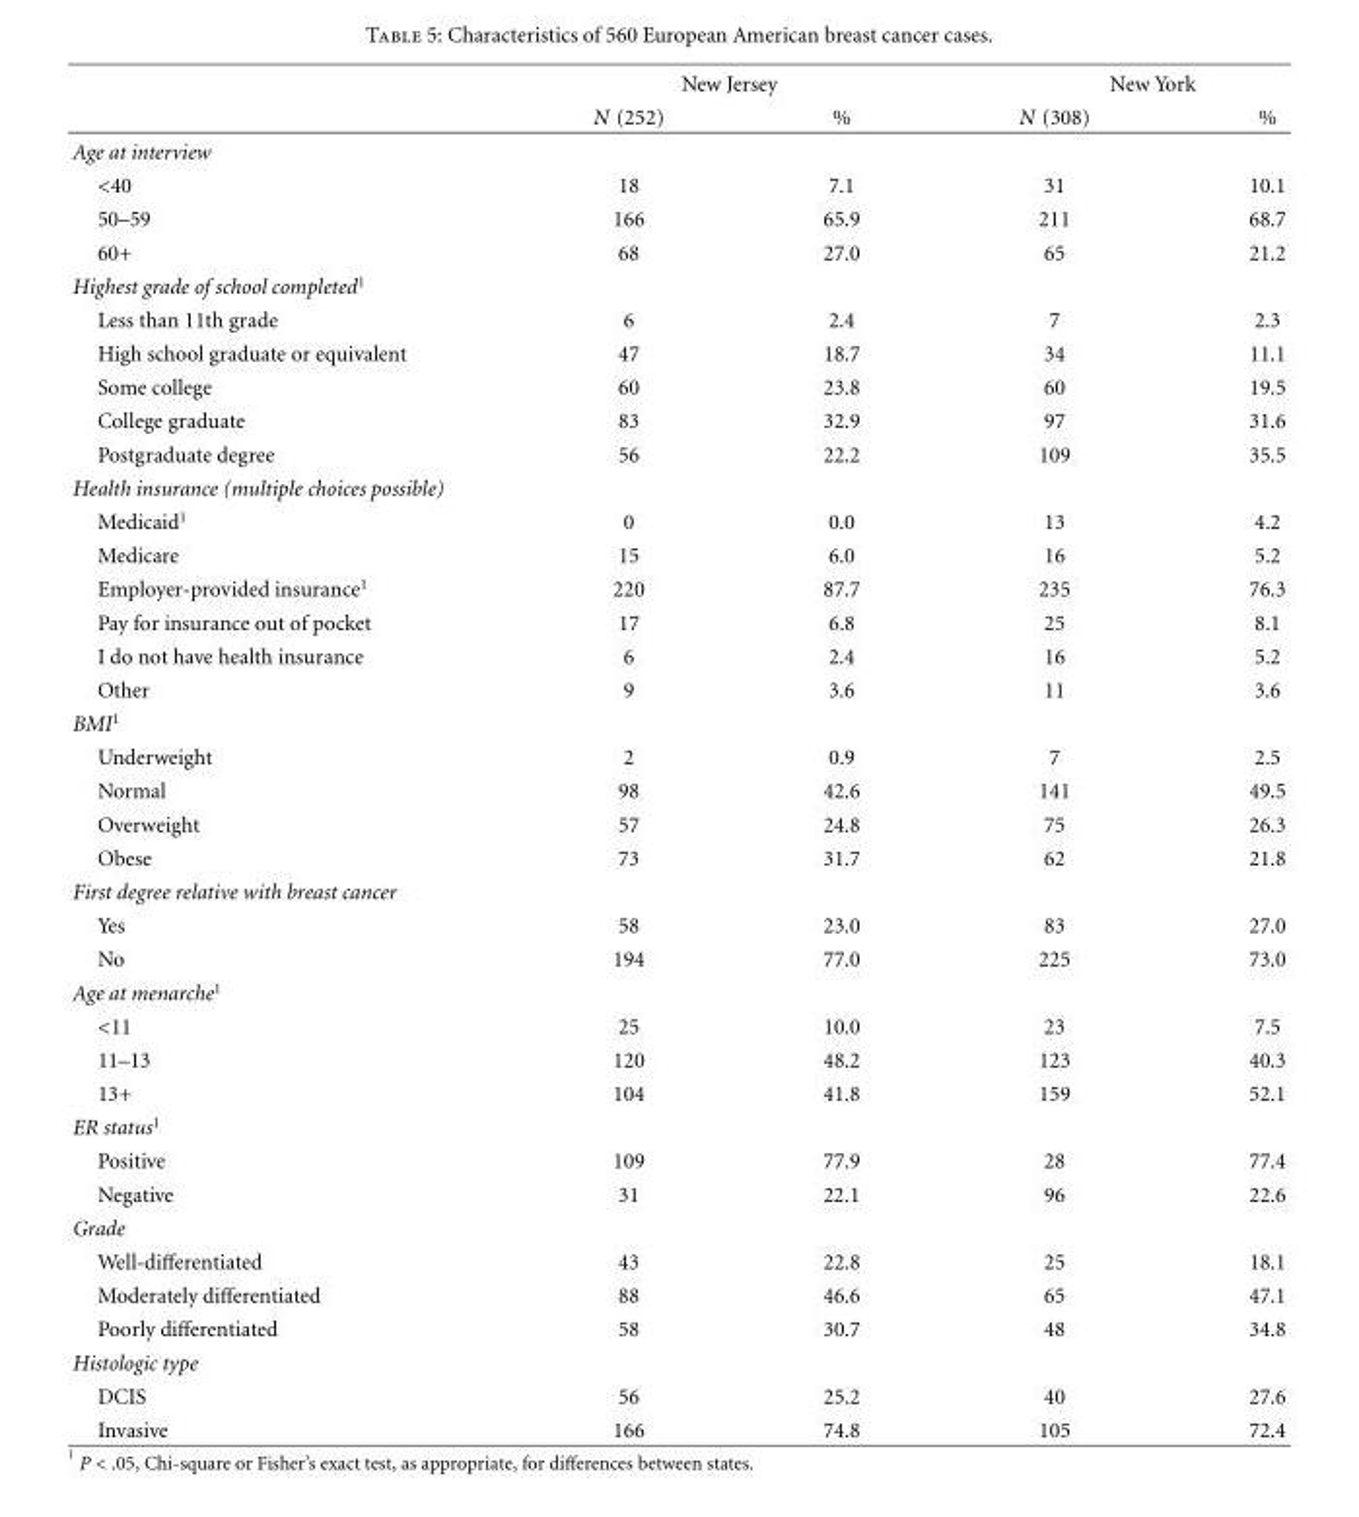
<table><thead><tr><td rowspan="2"></td><td colspan="2">New Jersey</td><td colspan="2">New York</td></tr><tr><td>N (252)</td><td>%</td><td>N (308)</td><td>%</td></tr></thead><tbody><tr><td colspan="5">Age at interview</td></tr><tr><td>&lt;40</td><td>18</td><td>7.1</td><td>31</td><td>10.1</td></tr><tr><td>50–59</td><td>166</td><td>65.9</td><td>211</td><td>68.7</td></tr><tr><td>60+</td><td>68</td><td>27.0</td><td>65</td><td>21.2</td></tr><tr><td colspan="5">Highest grade of school completed<sup>1</sup></td></tr><tr><td>Less than 11th grade</td><td>6</td><td>2.4</td><td>7</td><td>2.3</td></tr><tr><td>High school graduate or equivalent</td><td>47</td><td>18.7</td><td>34</td><td>11.1</td></tr><tr><td>Some college</td><td>60</td><td>23.8</td><td>60</td><td>19.5</td></tr><tr><td>College graduate</td><td>83</td><td>32.9</td><td>97</td><td>31.6</td></tr><tr><td>Postgraduate degree</td><td>56</td><td>22.2</td><td>109</td><td>35.5</td></tr><tr><td colspan="5">Health insurance (multiple choices possible)</td></tr><tr><td>Medicaid<sup>1</sup></td><td>0</td><td>0.0</td><td>13</td><td>4.2</td></tr><tr><td>Medicare</td><td>15</td><td>6.0</td><td>16</td><td>5.2</td></tr><tr><td>Employer-provided insurance<sup>1</sup></td><td>220</td><td>87.7</td><td>235</td><td>76.3</td></tr><tr><td>Pay for insurance out of pocket</td><td>17</td><td>6.8</td><td>25</td><td>8.1</td></tr><tr><td>I do not have health insurance</td><td>6</td><td>2.4</td><td>16</td><td>5.2</td></tr><tr><td>Other</td><td>9</td><td>3.6</td><td>11</td><td>3.6</td></tr><tr><td colspan="5">BMI<sup>1</sup></td></tr><tr><td>Underweight</td><td>2</td><td>0.9</td><td>7</td><td>2.5</td></tr><tr><td>Normal</td><td>98</td><td>42.6</td><td>141</td><td>49.5</td></tr><tr><td>Overweight</td><td>57</td><td>24.8</td><td>75</td><td>26.3</td></tr><tr><td>Obese</td><td>73</td><td>31.7</td><td>62</td><td>21.8</td></tr><tr><td colspan="5">First degree relative with breast cancer</td></tr><tr><td>Yes</td><td>58</td><td>23.0</td><td>83</td><td>27.0</td></tr><tr><td>No</td><td>194</td><td>77.0</td><td>225</td><td>73.0</td></tr><tr><td colspan="5">Age at menarche<sup>1</sup></td></tr><tr><td>&lt;11</td><td>25</td><td>10.0</td><td>23</td><td>7.5</td></tr><tr><td>11–13</td><td>120</td><td>48.2</td><td>123</td><td>40.3</td></tr><tr><td>13+</td><td>104</td><td>41.8</td><td>159</td><td>52.1</td></tr><tr><td colspan="5">ER status<sup>1</sup></td></tr><tr><td>Positive</td><td>109</td><td>77.9</td><td>28</td><td>77.4</td></tr><tr><td>Negative</td><td>31</td><td>22.1</td><td>96</td><td>22.6</td></tr><tr><td colspan="5">Grade</td></tr><tr><td>Well-differentiated</td><td>43</td><td>22.8</td><td>25</td><td>18.1</td></tr><tr><td>Moderately differentiated</td><td>88</td><td>46.6</td><td>65</td><td>47.1</td></tr><tr><td>Poorly differentiated</td><td>58</td><td>30.7</td><td>48</td><td>34.8</td></tr><tr><td colspan="5">Histologic type</td></tr><tr><td>DCIS</td><td>56</td><td>25.2</td><td>40</td><td>27.6</td></tr><tr><td>Invasive</td><td>166</td><td>74.8</td><td>105</td><td>72.4</td></tr></tbody></table>